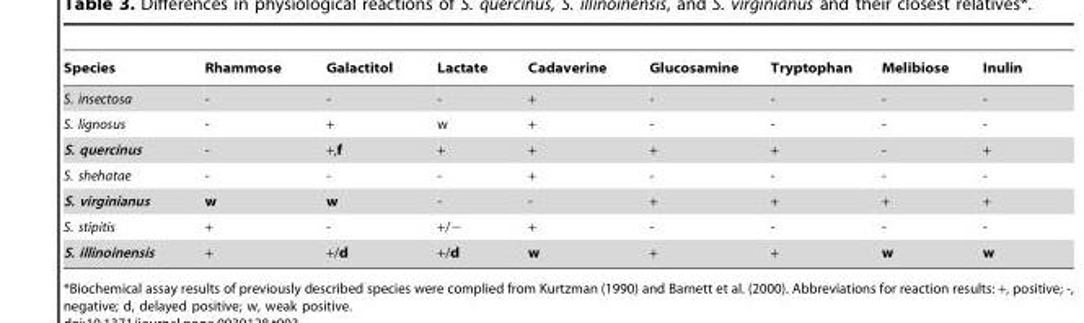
<table><thead><tr><td>Species</td><td>Rhammose</td><td>Galactitol</td><td>Lactate</td><td>Cadaverine</td><td>Glucosamine</td><td>Tryptophan</td><td>Melibiose</td><td>Inulin</td></tr></thead><tbody><tr><td>S. insectosa</td><td>-</td><td>-</td><td>-</td><td>+</td><td>-</td><td>-</td><td>-</td><td>-</td></tr><tr><td>S. lignosus</td><td>-</td><td>+</td><td>w</td><td>+</td><td>-</td><td>-</td><td>-</td><td>-</td></tr><tr><td>S. quercinus</td><td>-</td><td>+,f</td><td>+</td><td>+</td><td>+</td><td>+</td><td>-</td><td>+</td></tr><tr><td>S. shehatae</td><td>-</td><td>-</td><td>-</td><td>+</td><td>-</td><td>-</td><td>-</td><td>-</td></tr><tr><td>S. virginianus</td><td>w</td><td>w</td><td>-</td><td>-</td><td>+</td><td>+</td><td>+</td><td>+</td></tr><tr><td>S. stipitis</td><td>+</td><td>-</td><td>+/−</td><td>+</td><td>-</td><td>-</td><td>-</td><td>-</td></tr><tr><td>S. illinoinensis</td><td>+</td><td>+/d</td><td>+/d</td><td>w</td><td>+</td><td>+</td><td>w</td><td>w</td></tr></tbody></table>